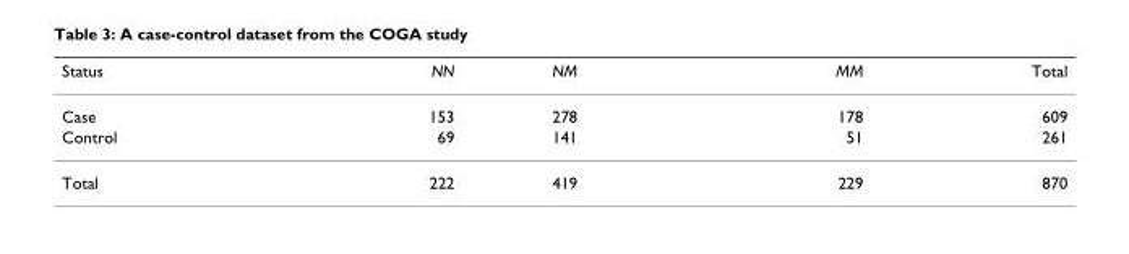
<table><thead><tr><td>Status</td><td>NN</td><td>NM</td><td>MM</td><td>Total</td></tr></thead><tbody><tr><td>Case</td><td>153</td><td>278</td><td>178</td><td>609</td></tr><tr><td>Control</td><td>69</td><td>141</td><td>51</td><td>261</td></tr><tr><td>Total</td><td>222</td><td>419</td><td>229</td><td>870</td></tr></tbody></table>